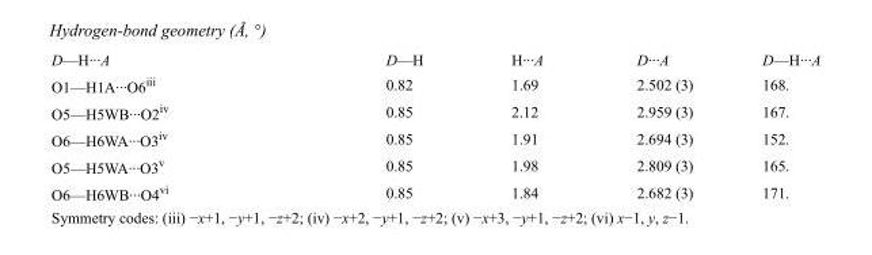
<table><tbody><tr><td>D—H···A</td><td>D—H</td><td>H···A</td><td>D···A</td><td>D—H···A</td></tr><tr><td>O1—H1A···O6<sup>iii</sup></td><td>0.82</td><td>1.69</td><td>2.502 (3)</td><td>168.</td></tr><tr><td>O5—H5WB···O2<sup>iv</sup></td><td>0.85</td><td>2.12</td><td>2.959 (3)</td><td>167.</td></tr><tr><td>O6—H6WA···O3<sup>iv</sup></td><td>0.85</td><td>1.91</td><td>2.694 (3)</td><td>152.</td></tr><tr><td>O5—H5WA···O3<sup>v</sup></td><td>0.85</td><td>1.98</td><td>2.809 (3)</td><td>165.</td></tr><tr><td>O6—H6WB···O4<sup>vi</sup></td><td>0.85</td><td>1.84</td><td>2.682 (3)</td><td>171.</td></tr></tbody></table>